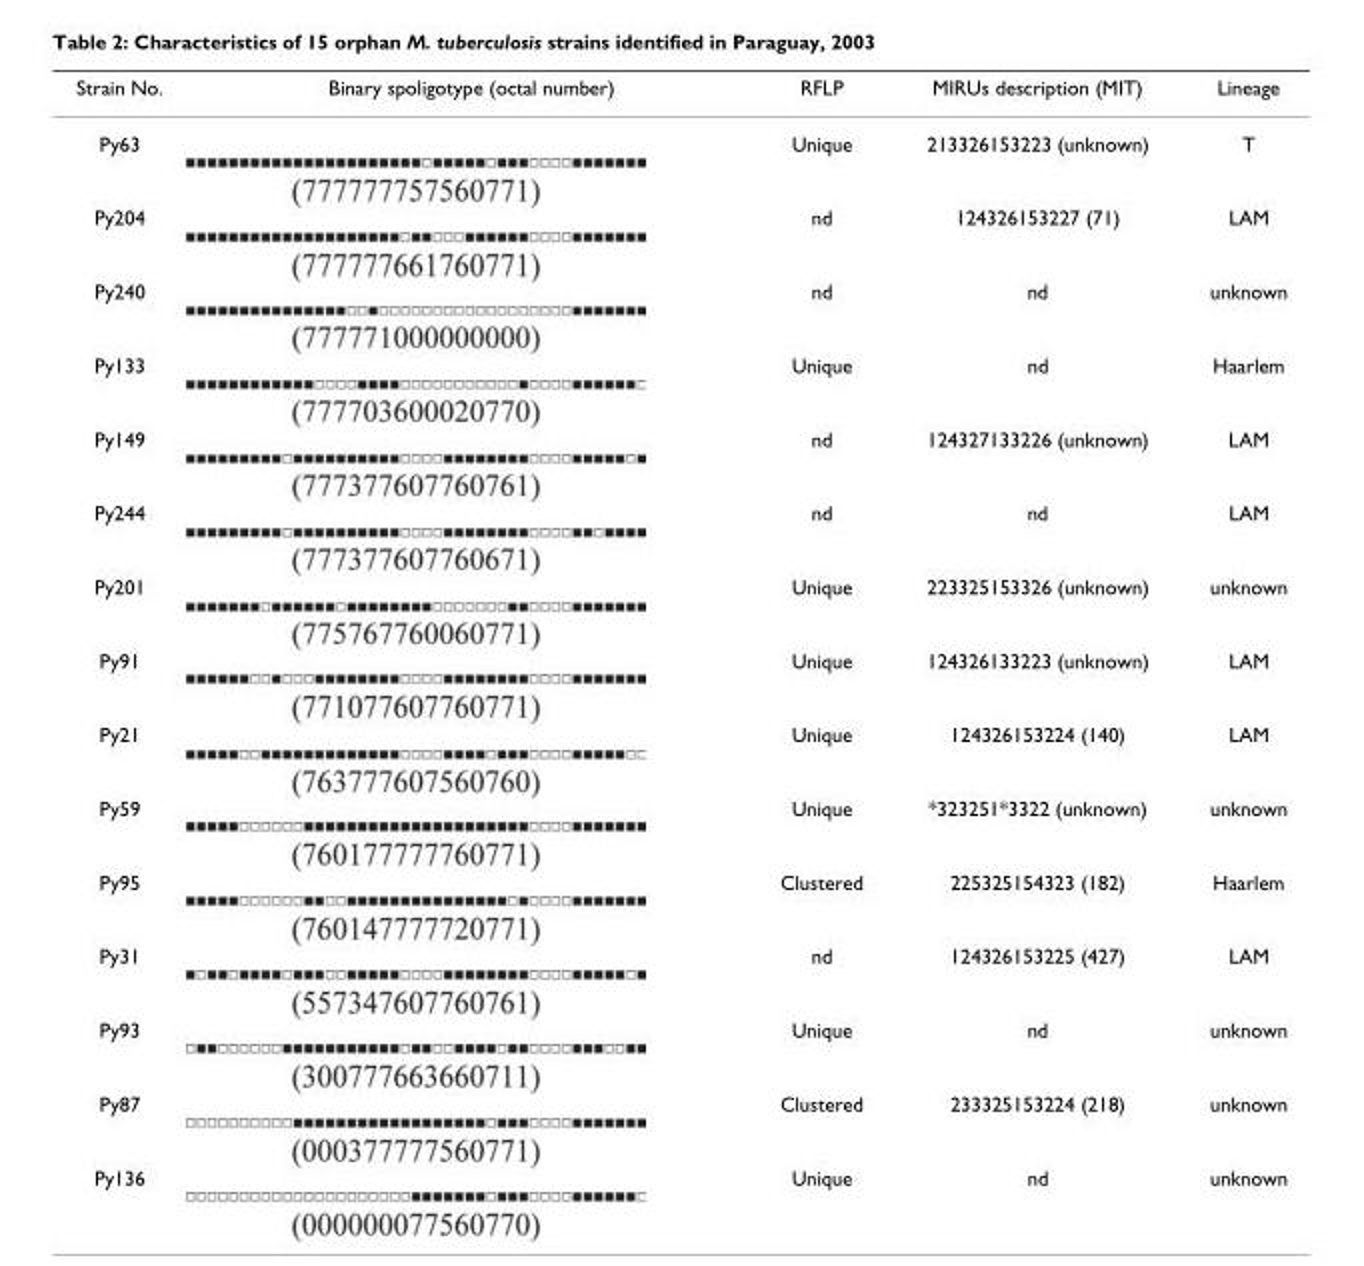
<table><thead><tr><td>Strain No.</td><td>Binary spoligotype (octal number)</td><td>RFLP</td><td>MIRUs description (MIT)</td><td>Lineage</td></tr></thead><tbody><tr><td>Py63</td><td></td><td>Unique</td><td>213326153223 (unknown)</td><td>T</td></tr><tr><td>Py204</td><td></td><td>nd</td><td>124326153227 (71)</td><td>LAM</td></tr><tr><td>Py240</td><td></td><td>nd</td><td>nd</td><td>unknown</td></tr><tr><td>Py133</td><td></td><td>Unique</td><td>nd</td><td>Haarlem</td></tr><tr><td>Py149</td><td></td><td>nd</td><td>124327133226 (unknown)</td><td>LAM</td></tr><tr><td>Py244</td><td></td><td>nd</td><td>nd</td><td>LAM</td></tr><tr><td>Py201</td><td></td><td>Unique</td><td>223325153326 (unknown)</td><td>unknown</td></tr><tr><td>Py91</td><td></td><td>Unique</td><td>124326133223 (unknown)</td><td>LAM</td></tr><tr><td>Py21</td><td></td><td>Unique</td><td>124326153224 (140)</td><td>LAM</td></tr><tr><td>Py59</td><td></td><td>Unique</td><td>*323251*3322 (unknown)</td><td>unknown</td></tr><tr><td>Py95</td><td></td><td>Clustered</td><td>225325154323 (182)</td><td>Haarlem</td></tr><tr><td>Py31</td><td></td><td>nd</td><td>124326153225 (427)</td><td>LAM</td></tr><tr><td>Py93</td><td></td><td>Unique</td><td>nd</td><td>unknown</td></tr><tr><td>Py87</td><td></td><td>Clustered</td><td>233325153224 (218)</td><td>unknown</td></tr><tr><td>Py136</td><td></td><td>Unique</td><td>nd</td><td>unknown</td></tr></tbody></table>